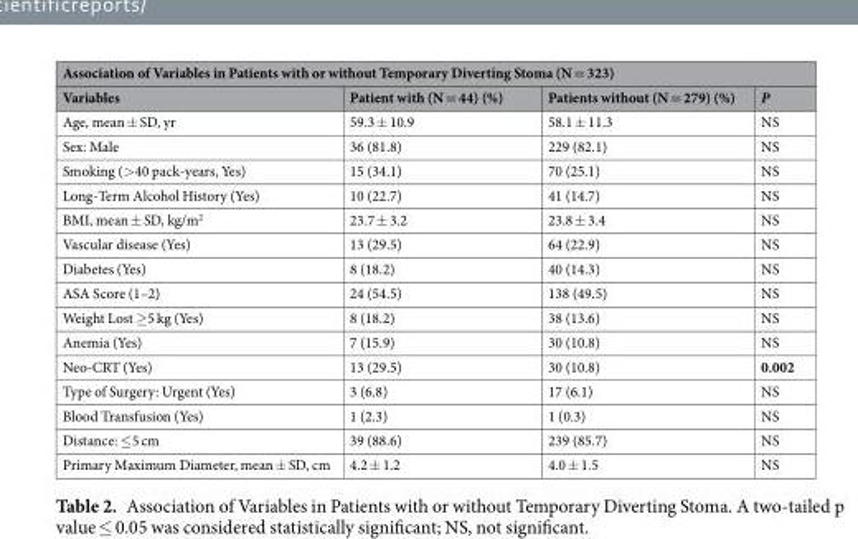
<table><thead><tr><td colspan="4">Association of Variables in Patients with or without Temporary Diverting Stoma (N = 323)</td></tr><tr><td>Variables</td><td>Patient with (N = 44) (%)</td><td>Patients without (N = 279) (%)</td><td>P</td></tr></thead><tbody><tr><td>Age, mean ± SD, yr</td><td>59.3 ± 10.9</td><td>58.1 ± 11.3</td><td>NS</td></tr><tr><td>Sex: Male</td><td>36 (81.8)</td><td>229 (82.1)</td><td>NS</td></tr><tr><td>Smoking (&gt;40 pack-years, Yes)</td><td>15 (34.1)</td><td>70 (25.1)</td><td>NS</td></tr><tr><td>Long-Term Alcohol History (Yes)</td><td>10 (22.7)</td><td>41 (14.7)</td><td>NS</td></tr><tr><td>BMI, mean ± SD, kg/m<sup>2</sup></td><td>23.7 ± 3.2</td><td>23.8 ± 3.4</td><td>NS</td></tr><tr><td>Vascular disease (Yes)</td><td>13 (29.5)</td><td>64 (22.9)</td><td>NS</td></tr><tr><td>Diabetes (Yes)</td><td>8 (18.2)</td><td>40 (14.3)</td><td>NS</td></tr><tr><td>ASA Score (1–2)</td><td>24 (54.5)</td><td>138 (49.5)</td><td>NS</td></tr><tr><td>Weight Lost ≥5 kg (Yes)</td><td>8 (18.2)</td><td>38 (13.6)</td><td>NS</td></tr><tr><td>Anemia (Yes)</td><td>7 (15.9)</td><td>30 (10.8)</td><td>NS</td></tr><tr><td>Neo-CRT (Yes)</td><td>13 (29.5)</td><td>30 (10.8)</td><td>0.002</td></tr><tr><td>Type of Surgery: Urgent (Yes)</td><td>3 (6.8)</td><td>17 (6.1)</td><td>NS</td></tr><tr><td>Blood Transfusion (Yes)</td><td>1 (2.3)</td><td>1 (0.3)</td><td>NS</td></tr><tr><td>Distance: ≤5 cm</td><td>39 (88.6)</td><td>239 (85.7)</td><td>NS</td></tr><tr><td>Primary Maximum Diameter, mean ± SD, cm</td><td>4.2 ± 1.2</td><td>4.0 ± 1.5</td><td>NS</td></tr></tbody></table>